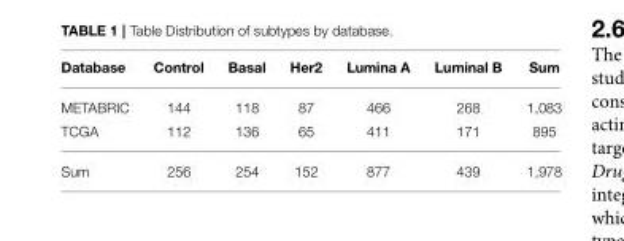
<table><thead><tr><td>Database</td><td>Control</td><td>Basal</td><td>Her2</td><td>Lumina A</td><td>Luminal B</td><td>Sum</td></tr></thead><tbody><tr><td>METABRIC</td><td>144</td><td>118</td><td>87</td><td>466</td><td>268</td><td>1,083</td></tr><tr><td>TCGA</td><td>112</td><td>136</td><td>65</td><td>411</td><td>171</td><td>895</td></tr><tr><td>Sum</td><td>256</td><td>254</td><td>152</td><td>877</td><td>439</td><td>1,978</td></tr></tbody></table>